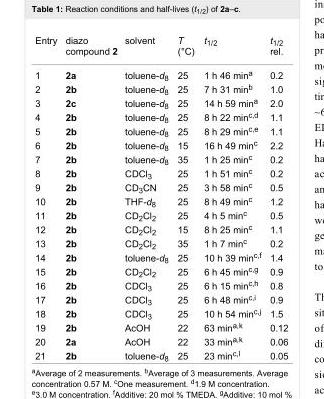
<table><tbody><tr><td>Entry</td><td>diazo compound 2</td><td>solvent</td><td>T (°C)</td><td>t<sub>1/2</sub></td><td>t<sub>1/2</sub> rel.</td></tr><tr><td>1</td><td>2a</td><td>toluene-d<sub>8</sub></td><td>25</td><td>1 h 46 min<sup>a</sup></td><td>0.2</td></tr><tr><td>2</td><td>2b</td><td>toluene-d<sub>8</sub></td><td>25</td><td>7 h 31 min<sup>b</sup></td><td>1.0</td></tr><tr><td>3</td><td>2c</td><td>toluene-d<sub>8</sub></td><td>25</td><td>14 h 59 min<sup>a</sup></td><td>2.0</td></tr><tr><td>4</td><td>2b</td><td>toluene-d<sub>8</sub></td><td>25</td><td>8 h 22 min<sup>c,d</sup></td><td>1.1</td></tr><tr><td>5</td><td>2b</td><td>toluene-d<sub>8</sub></td><td>25</td><td>8 h 29 min<sup>c,e</sup></td><td>1.1</td></tr><tr><td>6</td><td>2b</td><td>toluene-d<sub>8</sub></td><td>15</td><td>16 h 49 min<sup>c</sup></td><td>2.2</td></tr><tr><td>7</td><td>2b</td><td>toluene-d<sub>8</sub></td><td>35</td><td>1 h 25 min<sup>c</sup></td><td>0.2</td></tr><tr><td>8</td><td>2b</td><td>CDCl<sub>3</sub></td><td>25</td><td>1 h 51 min<sup>c</sup></td><td>0.2</td></tr><tr><td>9</td><td>2b</td><td>CD<sub>3</sub>CN</td><td>25</td><td>3 h 58 min<sup>c</sup></td><td>0.5</td></tr><tr><td>10</td><td>2b</td><td>THF-d<sub>8</sub></td><td>25</td><td>8 h 49 min<sup>c</sup></td><td>1.2</td></tr><tr><td>11</td><td>2b</td><td>CD<sub>2</sub>Cl<sub>2</sub></td><td>25</td><td>4 h 5 min<sup>c</sup></td><td>0.5</td></tr><tr><td>12</td><td>2b</td><td>CD<sub>2</sub>Cl<sub>2</sub></td><td>15</td><td>8 h 25 min<sup>c</sup></td><td>1.1</td></tr><tr><td>13</td><td>2b</td><td>CD<sub>2</sub>Cl<sub>2</sub></td><td>35</td><td>1 h 7 min<sup>c</sup></td><td>0.2</td></tr><tr><td>14</td><td>2b</td><td>toluene-d<sub>8</sub></td><td>25</td><td>10 h 39 min<sup>c,f</sup></td><td>1.4</td></tr><tr><td>15</td><td>2b</td><td>CD<sub>2</sub>Cl<sub>2</sub></td><td>25</td><td>6 h 45 min<sup>c,g</sup></td><td>0.9</td></tr><tr><td>16</td><td>2b</td><td>CDCl<sub>3</sub></td><td>25</td><td>6 h 15 min<sup>c,h</sup></td><td>0.8</td></tr><tr><td>17</td><td>2b</td><td>CDCl<sub>3</sub></td><td>25</td><td>6 h 48 min<sup>c,i</sup></td><td>0.9</td></tr><tr><td>18</td><td>2b</td><td>CDCl<sub>3</sub></td><td>25</td><td>10 h 54 min<sup>c,j</sup></td><td>1.5</td></tr><tr><td>19</td><td>2b</td><td>AcOH</td><td>22</td><td>63 min<sup>a,k</sup></td><td>0.12</td></tr><tr><td>20</td><td>2a</td><td>AcOH</td><td>22</td><td>33 min<sup>a,k</sup></td><td>0.06</td></tr><tr><td>21</td><td>2b</td><td>toluene-d<sub>8</sub></td><td>25</td><td>23 min<sup>c,l</sup></td><td>0.05</td></tr></tbody></table>